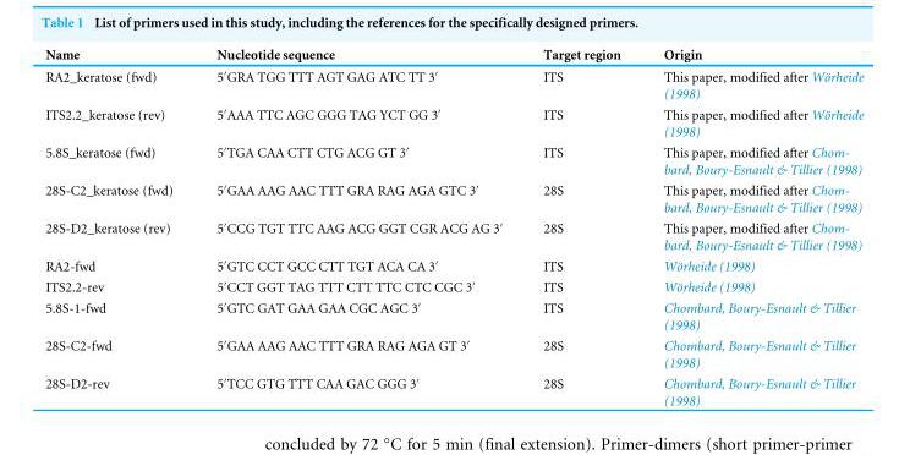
<table><thead><tr><td>Name</td><td>Nucleotide sequence</td><td>Target region</td><td>Origin</td></tr></thead><tbody><tr><td>RA2_keratose (fwd)</td><td>5′GRA TGG TTT AGT GAG ATC TT 3′</td><td>ITS</td><td>This paper, modified after Wörheide (1998)</td></tr><tr><td>ITS2.2_keratose (rev)</td><td>5′AAA TTC AGC GGG TAG YCT GG 3′</td><td>ITS</td><td>This paper, modified after Wörheide (1998)</td></tr><tr><td>5.8S_keratose (fwd)</td><td>5′TGA CAA CTT CTG ACG GT 3′</td><td>ITS</td><td>This paper, modified after Chom- bard, Boury-Esnault &amp; Tillier (1998)</td></tr><tr><td>28S-C2_keratose (fwd)</td><td>5′GAA AAG AAC TTT GRA RAG AGA GTC 3′</td><td>28S</td><td>This paper, modified after Chom- bard, Boury-Esnault &amp; Tillier (1998)</td></tr><tr><td>28S-D2_keratose (rev)</td><td>5′CCG TGT TTC AAG ACG GGT CGR ACG AG 3′</td><td>28S</td><td>This paper, modified after Chom- bard, Boury-Esnault &amp; Tillier (1998)</td></tr><tr><td>RA2-fwd</td><td>5′GTC CCT GCC CTT TGT ACA CA 3′</td><td>ITS</td><td>Wörheide (1998)</td></tr><tr><td>ITS2.2-rev</td><td>5′CCT GGT TAG TTT CTT TTC CTC CGC 3′</td><td>ITS</td><td>Wörheide (1998)</td></tr><tr><td>5.8S-1-fwd</td><td>5′GTC GAT GAA GAA CGC AGC 3′</td><td>ITS</td><td>Chombard, Boury-Esnault &amp; Tillier (1998)</td></tr><tr><td>28S-C2-fwd</td><td>5′GAA AAG AAC TTT GRA RAG AGA GT 3′</td><td>28S</td><td>Chombard, Boury-Esnault &amp; Tillier (1998)</td></tr><tr><td>28S-D2-rev</td><td>5′TCC GTG TTT CAA GAC GGG 3′</td><td>28S</td><td>Chombard, Boury-Esnault &amp; Tillier (1998)</td></tr></tbody></table>